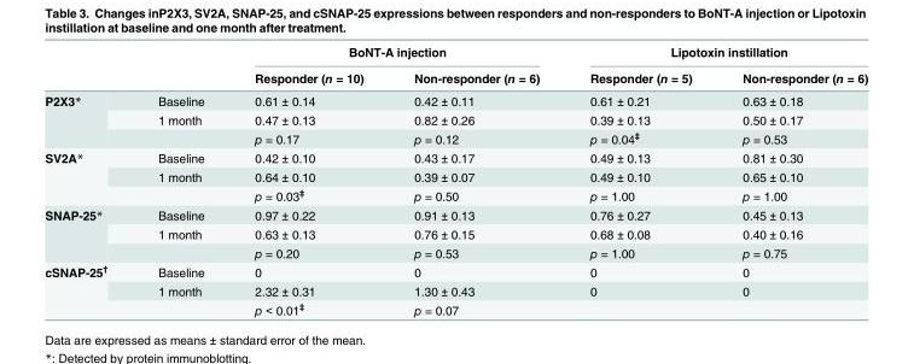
<table><thead><tr><td rowspan="2"></td><td rowspan="2"></td><td colspan="2">BoNT-A injection</td><td colspan="2">Lipotoxin instillation</td></tr><tr><td>Responder (n = 10)</td><td>Non-responder (n = 6)</td><td>Responder (n = 5)</td><td>Non-responder (n = 6)</td></tr></thead><tbody><tr><td rowspan="3">P2X3*</td><td>Baseline</td><td>0.61 ± 0.14</td><td>0.42 ± 0.11</td><td>0.61 ± 0.21</td><td>0.63 ± 0.18</td></tr><tr><td>1 month</td><td>0.47 ± 0.13</td><td>0.82 ± 0.26</td><td>0.39 ± 0.13</td><td>0.50 ± 0.17</td></tr><tr><td></td><td>p = 0.17</td><td>p = 0.12</td><td>p = 0.04<sup>‡</sup></td><td>p = 0.53</td></tr><tr><td rowspan="3">SV2A*</td><td>Baseline</td><td>0.42 ± 0.10</td><td>0.43 ± 0.17</td><td>0.49 ± 0.13</td><td>0.81 ± 0.30</td></tr><tr><td>1 month</td><td>0.64 ± 0.10</td><td>0.39 ± 0.07</td><td>0.49 ± 0.10</td><td>0.65 ± 0.10</td></tr><tr><td></td><td>p = 0.03<sup>‡</sup></td><td>p = 0.50</td><td>p = 1.00</td><td>p = 1.00</td></tr><tr><td rowspan="3">SNAP-25*</td><td>Baseline</td><td>0.97 ± 0.22</td><td>0.91 ± 0.13</td><td>0.76 ± 0.27</td><td>0.45 ± 0.13</td></tr><tr><td>1 month</td><td>0.63 ± 0.13</td><td>0.76 ± 0.15</td><td>0.68 ± 0.08</td><td>0.40 ± 0.16</td></tr><tr><td></td><td>p = 0.20</td><td>p = 0.53</td><td>p = 1.00</td><td>p = 0.75</td></tr><tr><td rowspan="3">cSNAP-25<sup>†</sup></td><td>Baseline</td><td>0</td><td>0</td><td>0</td><td>0</td></tr><tr><td>1 month</td><td>2.32 ± 0.31</td><td>1.30 ± 0.43</td><td>0</td><td>0</td></tr><tr><td></td><td>p &lt; 0.01<sup>‡</sup></td><td>p = 0.07</td><td></td><td></td></tr></tbody></table>